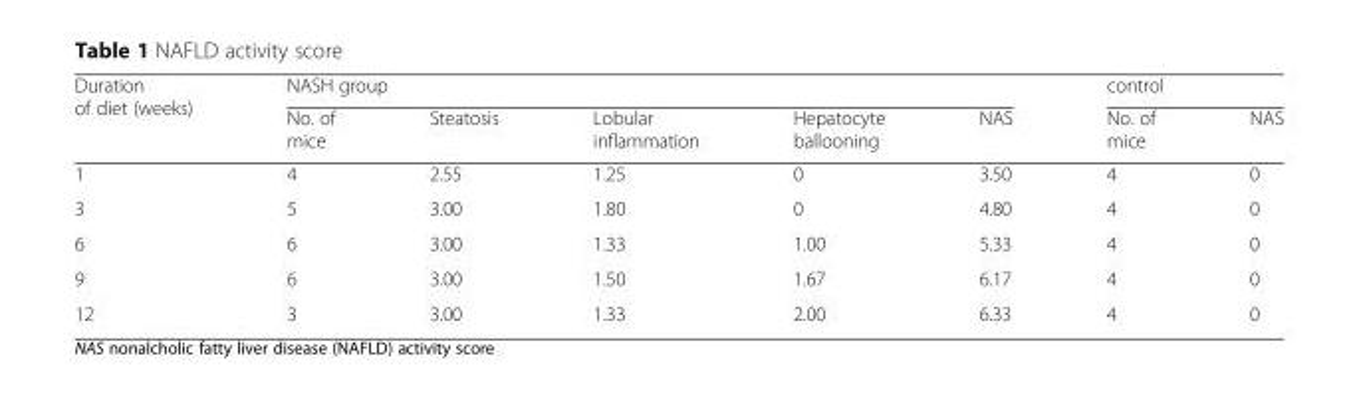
<table><thead><tr><td rowspan="2">Duration of diet (weeks)</td><td colspan="5">NASH group</td><td colspan="2">control</td></tr><tr><td>No. of mice</td><td>Steatosis</td><td>Lobular inflammation</td><td>Hepatocyte ballooning</td><td>NAS</td><td>No. of mice</td><td>NAS</td></tr></thead><tbody><tr><td>1</td><td>4</td><td>2.55</td><td>1.25</td><td>0</td><td>3.50</td><td>4</td><td>0</td></tr><tr><td>3</td><td>5</td><td>3.00</td><td>1.80</td><td>0</td><td>4.80</td><td>4</td><td>0</td></tr><tr><td>6</td><td>6</td><td>3.00</td><td>1.33</td><td>1.00</td><td>5.33</td><td>4</td><td>0</td></tr><tr><td>9</td><td>6</td><td>3.00</td><td>1.50</td><td>1.67</td><td>6.17</td><td>4</td><td>0</td></tr><tr><td>12</td><td>3</td><td>3.00</td><td>1.33</td><td>2.00</td><td>6.33</td><td>4</td><td>0</td></tr></tbody></table>